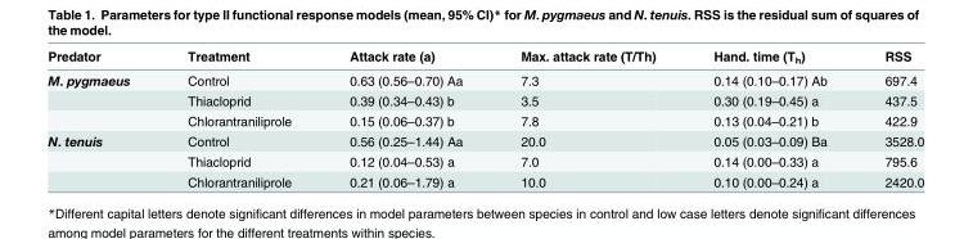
<table><thead><tr><td>Predator</td><td>Treatment</td><td>Attack rate (a)</td><td>Max. attack rate (T/Th)</td><td>Hand. time (T<sub>h</sub>)</td><td>RSS</td></tr></thead><tbody><tr><td rowspan="3">M. pygmaeus</td><td>Control</td><td>0.63 (0.56–0.70) Aa</td><td>7.3</td><td>0.14 (0.10–0.17) Ab</td><td>697.4</td></tr><tr><td>Thiacloprid</td><td>0.39 (0.34–0.43) b</td><td>3.5</td><td>0.30 (0.19–0.45) a</td><td>437.5</td></tr><tr><td>Chlorantraniliprole</td><td>0.15 (0.06–0.37) b</td><td>7.8</td><td>0.13 (0.04–0.21) b</td><td>422.9</td></tr><tr><td rowspan="3">N. tenuis</td><td>Control</td><td>0.56 (0.25–1.44) Aa</td><td>20.0</td><td>0.05 (0.03–0.09) Ba</td><td>3528.0</td></tr><tr><td>Thiacloprid</td><td>0.12 (0.04–0.53) a</td><td>7.0</td><td>0.14 (0.00–0.33) a</td><td>795.6</td></tr><tr><td>Chlorantraniliprole</td><td>0.21 (0.06–1.79) a</td><td>10.0</td><td>0.10 (0.00–0.24) a</td><td>2420.0</td></tr></tbody></table>